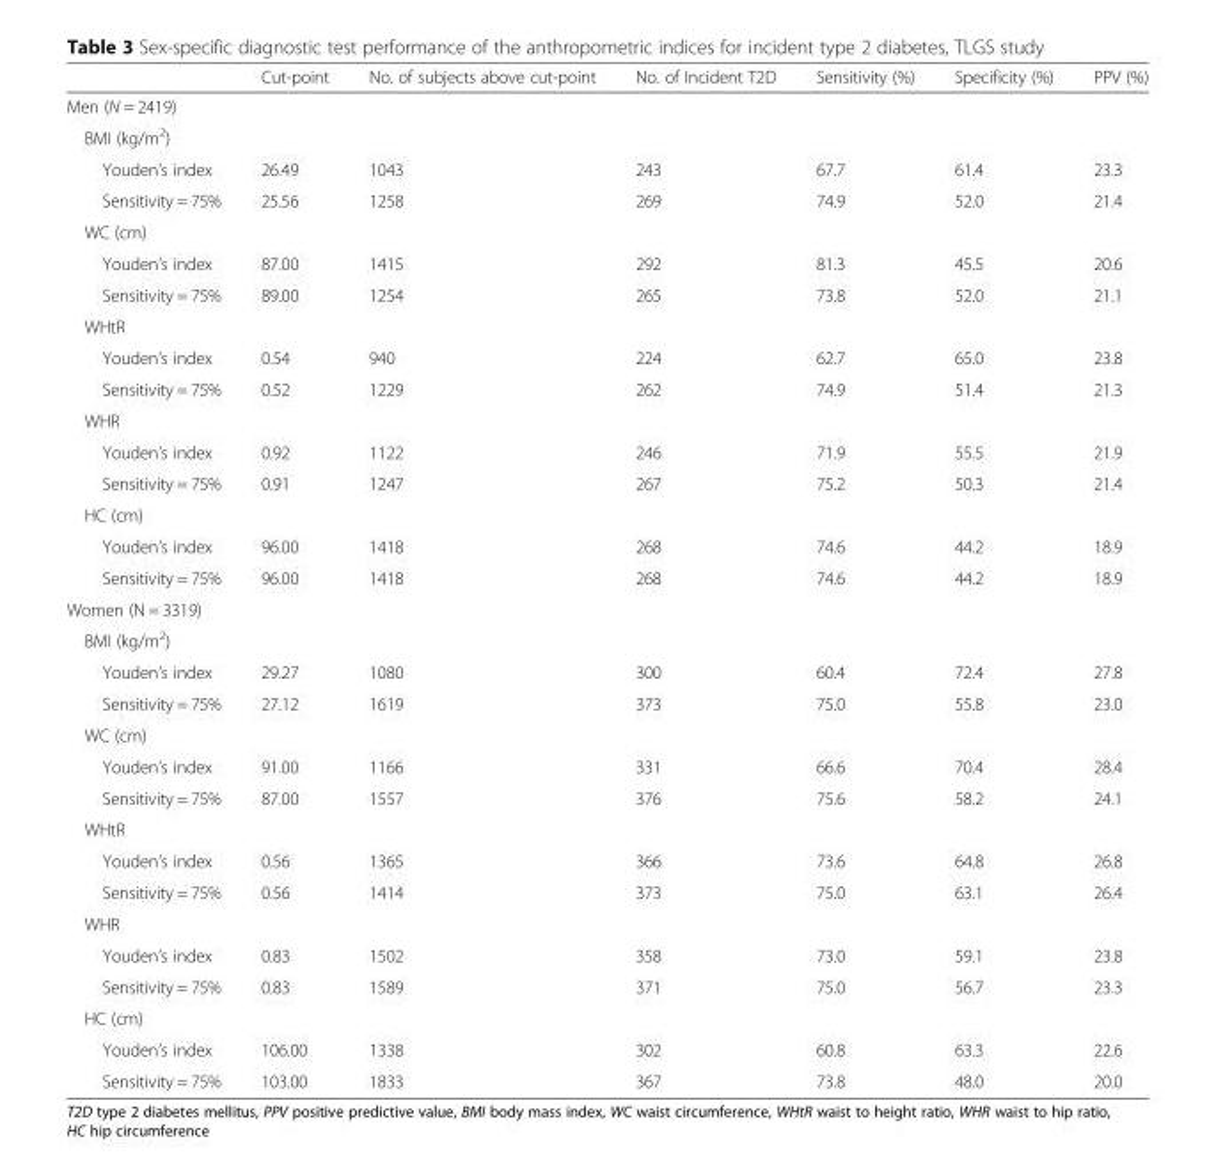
<table><thead><tr><td></td><td>Cut-point</td><td>No. of subjects above cut-point</td><td>No. of Incident T2D</td><td>Sensitivity (%)</td><td>Specificity (%)</td><td>PPV (%)</td></tr></thead><tbody><tr><td colspan="7">Men (N = 2419)</td></tr><tr><td colspan="7">BMI (kg/m<sup>2</sup>)</td></tr><tr><td>Youden’s index</td><td>26.49</td><td>1043</td><td>243</td><td>67.7</td><td>61.4</td><td>23.3</td></tr><tr><td>Sensitivity = 75%</td><td>25.56</td><td>1258</td><td>269</td><td>74.9</td><td>52.0</td><td>21.4</td></tr><tr><td colspan="7">WC (cm)</td></tr><tr><td>Youden’s index</td><td>87.00</td><td>1415</td><td>292</td><td>81.3</td><td>45.5</td><td>20.6</td></tr><tr><td>Sensitivity = 75%</td><td>89.00</td><td>1254</td><td>265</td><td>73.8</td><td>52.0</td><td>21.1</td></tr><tr><td colspan="7">WHtR</td></tr><tr><td>Youden’s index</td><td>0.54</td><td>940</td><td>224</td><td>62.7</td><td>65.0</td><td>23.8</td></tr><tr><td>Sensitivity = 75%</td><td>0.52</td><td>1229</td><td>262</td><td>74.9</td><td>51.4</td><td>21.3</td></tr><tr><td colspan="7">WHR</td></tr><tr><td>Youden’s index</td><td>0.92</td><td>1122</td><td>246</td><td>71.9</td><td>55.5</td><td>21.9</td></tr><tr><td>Sensitivity = 75%</td><td>0.91</td><td>1247</td><td>267</td><td>75.2</td><td>50.3</td><td>21.4</td></tr><tr><td colspan="7">HC (cm)</td></tr><tr><td>Youden’s index</td><td>96.00</td><td>1418</td><td>268</td><td>74.6</td><td>44.2</td><td>18.9</td></tr><tr><td>Sensitivity = 75%</td><td>96.00</td><td>1418</td><td>268</td><td>74.6</td><td>44.2</td><td>18.9</td></tr><tr><td colspan="7">Women (N = 3319)</td></tr><tr><td colspan="7">BMI (kg/m<sup>2</sup>)</td></tr><tr><td>Youden’s index</td><td>29.27</td><td>1080</td><td>300</td><td>60.4</td><td>72.4</td><td>27.8</td></tr><tr><td>Sensitivity = 75%</td><td>27.12</td><td>1619</td><td>373</td><td>75.0</td><td>55.8</td><td>23.0</td></tr><tr><td colspan="7">WC (cm)</td></tr><tr><td>Youden’s index</td><td>91.00</td><td>1166</td><td>331</td><td>66.6</td><td>70.4</td><td>28.4</td></tr><tr><td>Sensitivity = 75%</td><td>87.00</td><td>1557</td><td>376</td><td>75.6</td><td>58.2</td><td>24.1</td></tr><tr><td colspan="7">WHtR</td></tr><tr><td>Youden’s index</td><td>0.56</td><td>1365</td><td>366</td><td>73.6</td><td>64.8</td><td>26.8</td></tr><tr><td>Sensitivity = 75%</td><td>0.56</td><td>1414</td><td>373</td><td>75.0</td><td>63.1</td><td>26.4</td></tr><tr><td colspan="7">WHR</td></tr><tr><td>Youden’s index</td><td>0.83</td><td>1502</td><td>358</td><td>73.0</td><td>59.1</td><td>23.8</td></tr><tr><td>Sensitivity = 75%</td><td>0.83</td><td>1589</td><td>371</td><td>75.0</td><td>56.7</td><td>23.3</td></tr><tr><td colspan="7">HC (cm)</td></tr><tr><td>Youden’s index</td><td>106.00</td><td>1338</td><td>302</td><td>60.8</td><td>63.3</td><td>22.6</td></tr><tr><td>Sensitivity = 75%</td><td>103.00</td><td>1833</td><td>367</td><td>73.8</td><td>48.0</td><td>20.0</td></tr></tbody></table>